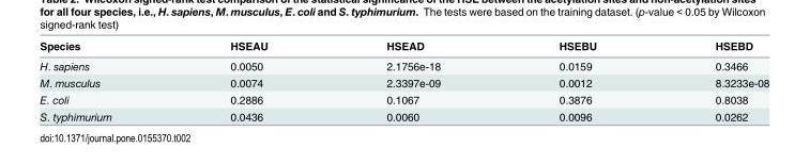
<table><thead><tr><td>Species</td><td>HSEAU</td><td>HSEAD</td><td>HSEBU</td><td>HSEBD</td></tr></thead><tbody><tr><td>H. sapiens</td><td>0.0050</td><td>2.1756e-18</td><td>0.0159</td><td>0.3466</td></tr><tr><td>M. musculus</td><td>0.0074</td><td>2.3397e-09</td><td>0.0012</td><td>8.3233e-08</td></tr><tr><td>E. coli</td><td>0.2886</td><td>0.1067</td><td>0.3876</td><td>0.8038</td></tr><tr><td>S. typhimurium</td><td>0.0436</td><td>0.0060</td><td>0.0096</td><td>0.0262</td></tr></tbody></table>